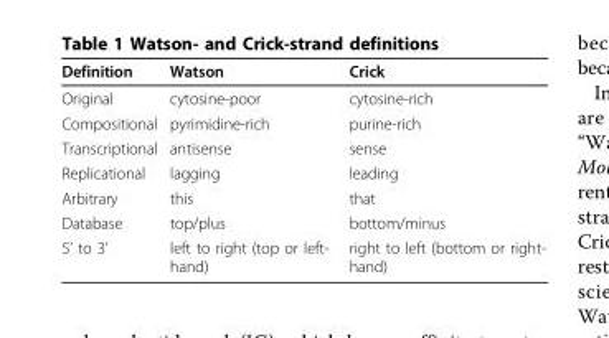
<table><thead><tr><td>Definition</td><td>Watson</td><td>Crick</td></tr></thead><tbody><tr><td>Original</td><td>cytosine-poor</td><td>cytosine-rich</td></tr><tr><td>Compositional</td><td>pyrimidine-rich</td><td>purine-rich</td></tr><tr><td>Transcriptional</td><td>antisense</td><td>sense</td></tr><tr><td>Replicational</td><td>lagging</td><td>leading</td></tr><tr><td>Arbitrary</td><td>this</td><td>that</td></tr><tr><td>Database</td><td>top/plus</td><td>bottom/minus</td></tr><tr><td>5’ to 3’</td><td>left to right (top or left- hand)</td><td>right to left (bottom or right- hand)</td></tr></tbody></table>